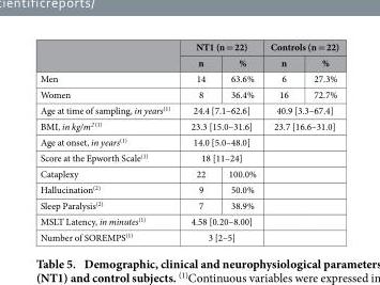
<table><thead><tr><td rowspan="2"></td><td colspan="2">NT1 (n = 22)</td><td colspan="2">Controls (n = 22)</td></tr><tr><td>n</td><td>%</td><td>n</td><td>%</td></tr></thead><tbody><tr><td>Men</td><td>14</td><td>63.6%</td><td>6</td><td>27.3%</td></tr><tr><td>Women</td><td>8</td><td>36.4%</td><td>16</td><td>72.7%</td></tr><tr><td>Age at time of sampling, in years<sup>(1)</sup></td><td colspan="2">24.4 [7.1–62.6]</td><td colspan="2">40.9 [3.3–67.4]</td></tr><tr><td>BMI, in kg/m<sup>2 (1)</sup></td><td colspan="2">23.3 [15.0–31.6]</td><td colspan="2">23.7 [16.6–31.0]</td></tr><tr><td>Age at onset, in years<sup>(1)</sup></td><td colspan="2">14.0 [5.0–48.0]</td><td colspan="2"></td></tr><tr><td>Score at the Epworth Scale<sup>(1)</sup></td><td colspan="2">18 [11–24]</td><td colspan="2"></td></tr><tr><td>Cataplexy</td><td>22</td><td>100.0%</td><td colspan="2"></td></tr><tr><td>Hallucination<sup>(2)</sup></td><td>9</td><td>50.0%</td><td colspan="2"></td></tr><tr><td>Sleep Paralysis<sup>(2)</sup></td><td>7</td><td>38.9%</td><td colspan="2"></td></tr><tr><td>MSLT Latency, in minutes<sup>(1)</sup></td><td colspan="2">4.58 [0.20–8.00]</td><td colspan="2"></td></tr><tr><td>Number of SOREMPS<sup>(1)</sup></td><td colspan="2">3 [2–5]</td><td colspan="2"></td></tr></tbody></table>